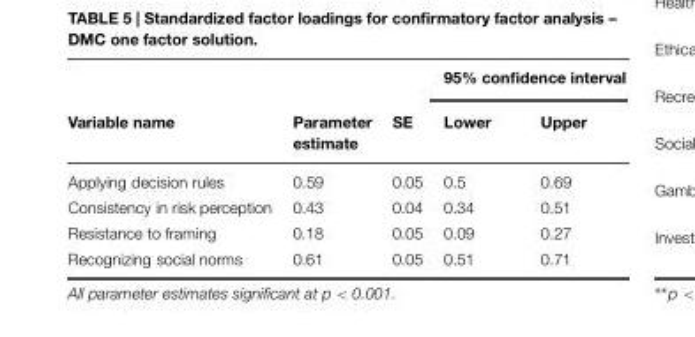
<table><thead><tr><td rowspan="2">Variable name</td><td rowspan="2">Parameter estimate</td><td rowspan="2">SE</td><td colspan="2">95% confidence interval</td></tr><tr><td>Lower</td><td>Upper</td></tr></thead><tbody><tr><td>Applying decision rules</td><td>0.59</td><td>0.05</td><td>0.5</td><td>0.69</td></tr><tr><td>Consistency in risk perception</td><td>0.43</td><td>0.04</td><td>0.34</td><td>0.51</td></tr><tr><td>Resistance to framing</td><td>0.18</td><td>0.05</td><td>0.09</td><td>0.27</td></tr><tr><td>Recognizing social norms</td><td>0.61</td><td>0.05</td><td>0.51</td><td>0.71</td></tr></tbody></table>